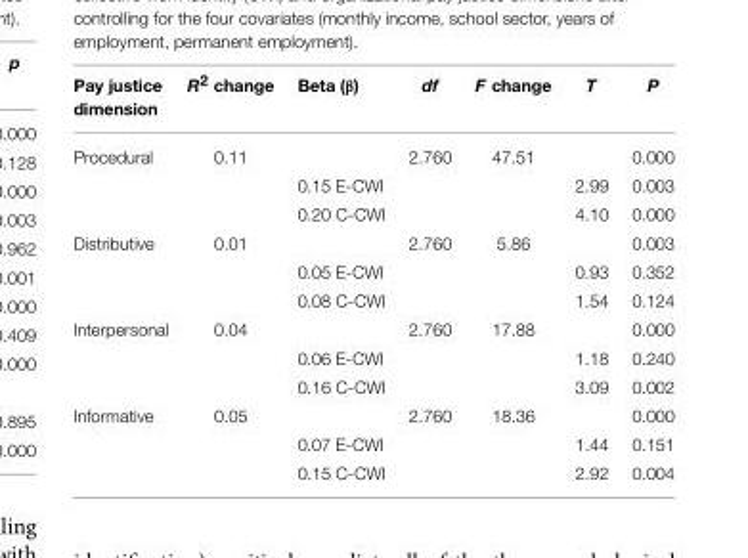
<table><thead><tr><td>Pay justice dimension</td><td>R<sup>2</sup> change</td><td>Beta (β)</td><td>df</td><td>F change</td><td>T</td><td>P</td></tr></thead><tbody><tr><td rowspan="3">Procedural</td><td>0.11</td><td></td><td>2.760</td><td>47.51</td><td></td><td>0.000</td></tr><tr><td></td><td>0.15 E-CWI</td><td></td><td></td><td>2.99</td><td>0.003</td></tr><tr><td></td><td>0.20 C-CWI</td><td></td><td></td><td>4.10</td><td>0.000</td></tr><tr><td rowspan="3">Distributive</td><td>0.01</td><td></td><td>2.760</td><td>5.86</td><td></td><td>0.003</td></tr><tr><td></td><td>0.05 E-CWI</td><td></td><td></td><td>0.93</td><td>0.352</td></tr><tr><td></td><td>0.08 C-CWI</td><td></td><td></td><td>1.54</td><td>0.124</td></tr><tr><td rowspan="3">Interpersonal</td><td>0.04</td><td></td><td>2.760</td><td>17.88</td><td></td><td>0.000</td></tr><tr><td></td><td>0.06 E-CWI</td><td></td><td></td><td>1.18</td><td>0.240</td></tr><tr><td></td><td>0.16 C-CWI</td><td></td><td></td><td>3.09</td><td>0.002</td></tr><tr><td rowspan="3">Informative</td><td>0.05</td><td></td><td>2.760</td><td>18.36</td><td></td><td>0.000</td></tr><tr><td></td><td>0.07 E-CWI</td><td></td><td></td><td>1.44</td><td>0.151</td></tr><tr><td></td><td>0.15 C-CWI</td><td></td><td></td><td>2.92</td><td>0.004</td></tr></tbody></table>